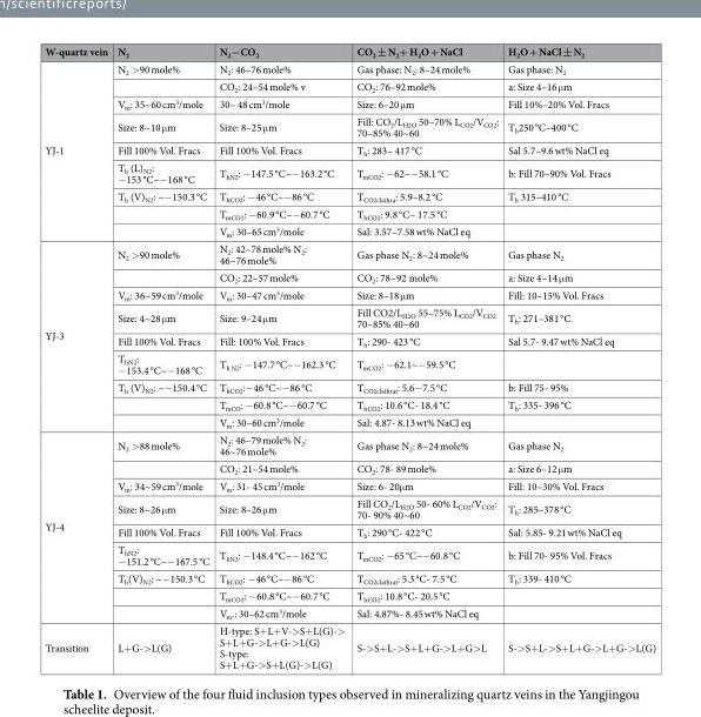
<table><thead><tr><td>W-quartz vein</td><td>N<sub>2</sub></td><td>N<sub>2</sub>−CO<sub>2</sub></td><td>CO<sub>2</sub> ± N<sub>2</sub>+ H<sub>2</sub>O + NaCl</td><td>H<sub>2</sub>O + NaCl ± N<sub>2</sub></td></tr></thead><tbody><tr><td rowspan="9">YJ-1</td><td>N<sub>2</sub> &gt;90 mole%</td><td>N<sub>2</sub>: 46–76 mole%</td><td>Gas phase: N<sub>2</sub>: 8–24 mole%</td><td>Gas phase: N<sub>2</sub></td></tr><tr><td></td><td>CO<sub>2</sub>: 24–54 mole% v</td><td>CO<sub>2</sub>: 76–92 mole%</td><td>a: Size 4–16 μm</td></tr><tr><td>V<sub>m</sub>: 35~60 cm<sup>3</sup>/mole</td><td>30– 48 cm<sup>3</sup>/mole</td><td>Size: 6–20 μm</td><td>Fill 10%–20% Vol. Fracs</td></tr><tr><td>Size: 8~10 μm</td><td>Size: 8–25 μm</td><td>Fill: CO<sub>2</sub>/L<sub>H2O</sub> 50–70% L<sub>CO2</sub>/V<sub>CO2</sub>: 70–85% 40~60</td><td>T<sub>h</sub>250 °C–400 °C</td></tr><tr><td>Fill 100% Vol. Fracs</td><td>Fill 100% Vol. Fracs</td><td>T<sub>h</sub>: 283– 417 °C</td><td>Sal 5.7–9.6 wt% NaCl eq</td></tr><tr><td>T<sub>h</sub> (L)<sub>N2</sub>: −153 °C~−168 °C</td><td>T<sub>hN2</sub>: −147.5 °C~−163.2 °C</td><td>T<sub>mCO2</sub>: −62~−58.1 °C</td><td>b: Fill 70–90% Vol. Fracs</td></tr><tr><td>T<sub>h</sub> (V)<sub>N2</sub>: ~−150.3 °C</td><td>T<sub>hCO2</sub>: −46 °C~−86 °C</td><td>T<sub>CO2clathra</sub>: 5.9–8.2 °C</td><td>T<sub>h</sub> 315–410 °C</td></tr><tr><td></td><td>T<sub>mCO2</sub>: −60.9 °C~−60.7 °C</td><td>T<sub>hCO2</sub>: 9.8 °C~ 17.5 °C</td><td></td></tr><tr><td></td><td>V<sub>m</sub>: 30–65 cm<sup>3</sup>/mole</td><td>Sal: 3.57–7.58 wt% NaCl eq</td><td></td></tr><tr><td rowspan="9">YJ-3</td><td>N<sub>2</sub> &gt;90 mole%</td><td>N<sub>2</sub>: 42–78 mole% N<sub>2</sub>: 46~76 mole%</td><td>Gas phase N<sub>2</sub>: 8~24 mole%</td><td>Gas phase N<sub>2</sub></td></tr><tr><td></td><td>CO<sub>2</sub>: 22–57 mole%</td><td>CO<sub>2</sub>: 78~92 mole%</td><td>a: Size 4~14 μm</td></tr><tr><td>V<sub>m</sub>: 36~59 cm<sup>3</sup>/mole</td><td>V<sub>m</sub>: 30–47 cm<sup>3</sup>/mole</td><td>Size: 8–18 μm</td><td>Fill: 10–15% Vol. Fracs</td></tr><tr><td>Size: 4~28 μm</td><td>Size: 9–24 μm</td><td>Fill CO2/L<sub>H2O</sub> 55–75% L<sub>CO2</sub>/V<sub>CO2</sub> 70–85% 40~60</td><td>T<sub>h</sub>: 271–381 °C</td></tr><tr><td>Fill 100% Vol. Fracs</td><td>Fill: 100% Vol. Fracs</td><td>T<sub>h</sub>: 290- 423 °C</td><td>Sal 5.7- 9.47 wt% NaCl eq</td></tr><tr><td>T<sub>hN2</sub>: −153.4 °C~−168 °C</td><td>T<sub>h N2</sub>: −147.7 °C~−162.3 °C</td><td>T<sub>mCO2</sub>: −62.1~−59.5 °C</td><td></td></tr><tr><td>T<sub>h</sub> (V)<sub>N2</sub>: ~−150.4 °C</td><td>T<sub>hCO2</sub>:−46 °C~−86 °C</td><td>T<sub>CO2clathrat</sub>: 5.6−7.5 °C</td><td>b: Fill 75- 95%</td></tr><tr><td></td><td>T<sub>mCO</sub>: −60.8 °C~−60.7 °C</td><td>T<sub>hCO2</sub>: 10.6 °C- 18.4 °C</td><td>T<sub>h</sub>: 335- 396 °C</td></tr><tr><td></td><td>V<sub>m</sub>: 30–60 cm<sup>3</sup>/mole</td><td>Sal: 4.87- 8.13 wt% NaCl eq</td><td></td></tr><tr><td rowspan="9">YJ-4</td><td>N<sub>2</sub> &gt;88 mole%</td><td>N<sub>2</sub>: 46–79 mole% N<sub>2</sub>: 46~76 mole%</td><td>Gas phase N<sub>2</sub>: 8~24 mole%</td><td>Gas phase N<sub>2</sub></td></tr><tr><td></td><td>CO<sub>2</sub>: 21–54 mole%</td><td>CO<sub>2</sub>: 78- 89 mole%</td><td>a: Size 6–12 μm</td></tr><tr><td>V<sub>m</sub>: 34~59 cm<sup>3</sup>/mole</td><td>V<sub>m</sub>: 31- 45 cm<sup>3</sup>/mole</td><td>Size: 6- 20μm</td><td>Fill: 10–30% Vol. Fracs</td></tr><tr><td>Size: 8~26 μm</td><td>Size: 8–26 μm</td><td>Fill CO<sub>2</sub>/L<sub>H2O</sub> 50- 60% L<sub>CO2</sub>/V<sub>CO2</sub>: 70- 90% 40~60</td><td>T<sub>h</sub>: 285–378 °C</td></tr><tr><td>Fill 100% Vol. Fracs</td><td>Fill 100% Vol. Fracs</td><td>T<sub>h</sub>: 290 °C- 422 °C</td><td>Sal: 5.85- 9.21 wt% NaCl eq</td></tr><tr><td>T<sub>hN2</sub>: −151.2 °C~−167.5 °C</td><td>T<sub>hN2</sub>: −148.4 °C~−162 °C</td><td>T<sub>mCO2</sub>: −65 °C~−60.8 °C</td><td>b: Fill 70- 95% Vol. Fracs</td></tr><tr><td>T<sub>h</sub>(V)<sub>N2</sub>: ~−150.3 °C</td><td>T<sub>hCO2</sub>: −46 °C~−86 °C</td><td>T<sub>CO2clathrat</sub>: 5.3 °C- 7.5 °C</td><td>T<sub>h</sub>: 339- 410 °C</td></tr><tr><td></td><td>T<sub>mCO2</sub>: −60.8 °C~−60.7 °C</td><td>T<sub>hCO2</sub>: 10.8 °C- 20.5 °C</td><td></td></tr><tr><td></td><td>V<sub>m</sub>.: 30–62 cm<sup>3</sup>/mole</td><td>Sal: 4.87%- 8.45 wt% NaCl eq</td><td></td></tr><tr><td>Transition</td><td>L+G-&gt;L(G)</td><td>H-type: S+L+V-&gt;S+L(G)-&gt; S+L+G-&gt;L+G-&gt;L(G) S-type: S+L+G-&gt;S+L(G)-&gt;L(G)</td><td>S-&gt;S+L-&gt;S+L+G-&gt;L+G&gt;L</td><td>S-&gt;S+L-&gt;S+L+G-&gt;L+G-&gt;L(G)</td></tr></tbody></table>